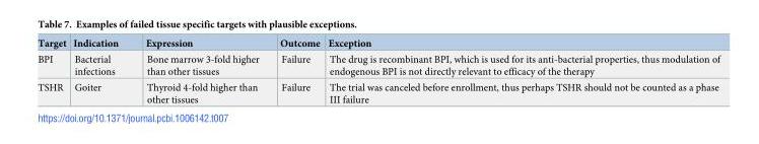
<table><thead><tr><td>Target</td><td>Indication</td><td>Expression</td><td>Outcome</td><td>Exception</td></tr></thead><tbody><tr><td>BPI</td><td>Bacterial infections</td><td>Bone marrow 3-fold higher than other tissues</td><td>Failure</td><td>The drug is recombinant BPI, which is used for its anti-bacterial properties, thus modulation of endogenous BPI is not directly relevant to efficacy of the therapy</td></tr><tr><td>TSHR</td><td>Goiter</td><td>Thyroid 4-fold higher than other tissues</td><td>Failure</td><td>The trial was canceled before enrollment, thus perhaps TSHR should not be counted as a phase III failure</td></tr></tbody></table>